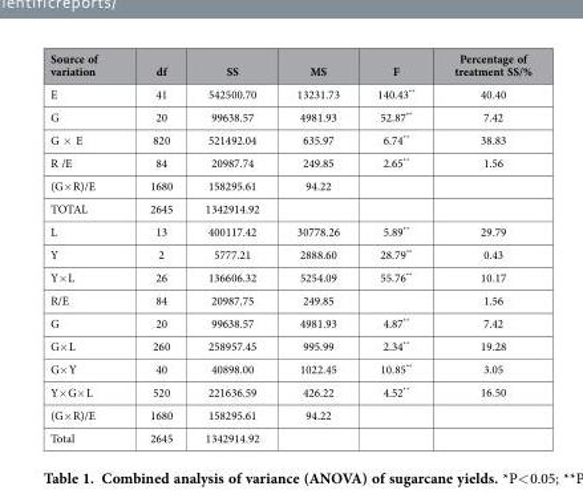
<table><thead><tr><td>Source of variation</td><td>df</td><td>SS</td><td>MS</td><td>F</td><td>Percentage of treatment SS/%</td></tr></thead><tbody><tr><td>E</td><td>41</td><td>542500.70</td><td>13231.73</td><td>140.43**</td><td>40.40</td></tr><tr><td>G</td><td>20</td><td>99638.57</td><td>4981.93</td><td>52.87**</td><td>7.42</td></tr><tr><td>G × E</td><td>820</td><td>521492.04</td><td>635.97</td><td>6.74**</td><td>38.83</td></tr><tr><td>R /E</td><td>84</td><td>20987.74</td><td>249.85</td><td>2.65**</td><td>1.56</td></tr><tr><td>(G× R)/E</td><td>1680</td><td>158295.61</td><td>94.22</td><td></td><td></td></tr><tr><td>TOTAL</td><td>2645</td><td>1342914.92</td><td></td><td></td><td></td></tr><tr><td>L</td><td>13</td><td>400117.42</td><td>30778.26</td><td>5.89**</td><td>29.79</td></tr><tr><td>Y</td><td>2</td><td>5777.21</td><td>2888.60</td><td>28.79**</td><td>0.43</td></tr><tr><td>Y× L</td><td>26</td><td>136606.32</td><td>5254.09</td><td>55.76**</td><td>10.17</td></tr><tr><td>R/E</td><td>84</td><td>20987.75</td><td>249.85</td><td></td><td>1.56</td></tr><tr><td>G</td><td>20</td><td>99638.57</td><td>4981.93</td><td>4.87**</td><td>7.42</td></tr><tr><td>G× L</td><td>260</td><td>258957.45</td><td>995.99</td><td>2.34**</td><td>19.28</td></tr><tr><td>G× Y</td><td>40</td><td>40898.00</td><td>1022.45</td><td>10.85**</td><td>3.05</td></tr><tr><td>Y× G× L</td><td>520</td><td>221636.59</td><td>426.22</td><td>4.52**</td><td>16.50</td></tr><tr><td>(G× R)/E</td><td>1680</td><td>158295.61</td><td>94.22</td><td></td><td></td></tr><tr><td>Total</td><td>2645</td><td>1342914.92</td><td></td><td></td><td></td></tr></tbody></table>